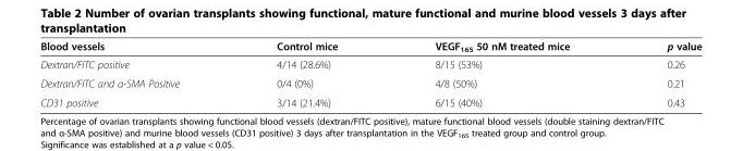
<table><thead><tr><td>Blood vessels</td><td>Control mice</td><td>VEGF<sub>165</sub> 50 nM treated mice</td><td>p value</td></tr></thead><tbody><tr><td>Dextran/FITC positive</td><td>4/14 (28.6%)</td><td>8/15 (53%)</td><td>0.26</td></tr><tr><td>Dextran/FITC and α-SMA Positive</td><td>0/4 (0%)</td><td>4/8 (50%)</td><td>0.21</td></tr><tr><td>CD31 positive</td><td>3/14 (21.4%)</td><td>6/15 (40%)</td><td>0.43</td></tr></tbody></table>